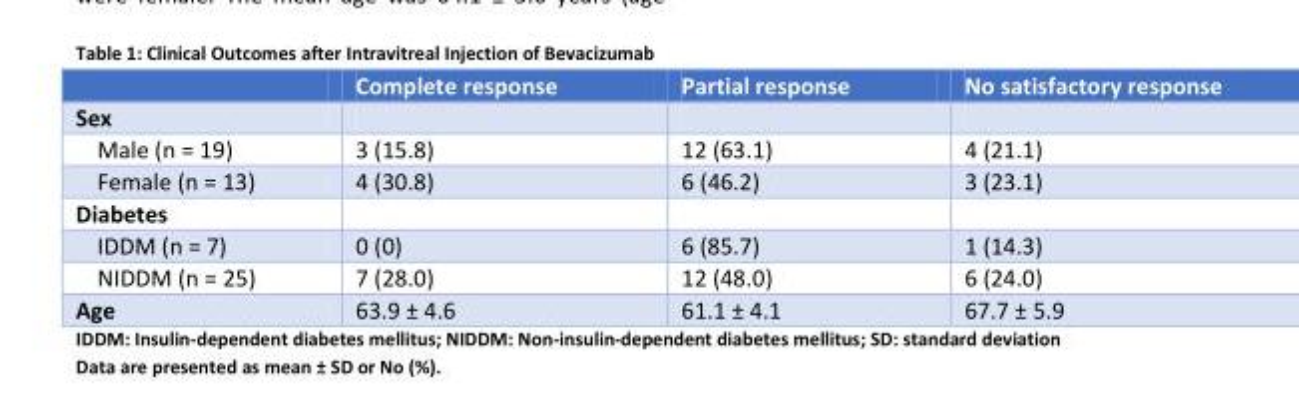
<table><thead><tr><td></td><td>Complete response</td><td>Partial response</td><td>No satisfactory response</td></tr></thead><tbody><tr><td colspan="4">Sex</td></tr><tr><td>Male (n = 19)</td><td>3 (15.8)</td><td>12 (63.1)</td><td>4 (21.1)</td></tr><tr><td>Female (n = 13)</td><td>4 (30.8)</td><td>6 (46.2)</td><td>3 (23.1)</td></tr><tr><td colspan="4">Diabetes</td></tr><tr><td>IDDM (n = 7)</td><td>0 (0)</td><td>6 (85.7)</td><td>1 (14.3)</td></tr><tr><td>NIDDM (n = 25)</td><td>7 (28.0)</td><td>12 (48.0)</td><td>6 (24.0)</td></tr><tr><td>Age</td><td>63.9 ± 4.6</td><td>61.1 ± 4.1</td><td>67.7 ± 5.9</td></tr></tbody></table>